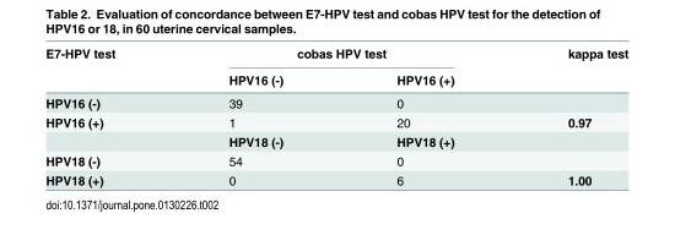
<table><thead><tr><td rowspan="2">E7-HPV test</td><td colspan="2">cobas HPV test</td><td rowspan="2">kappa test</td></tr><tr><td>HPV16 (-)</td><td>HPV16 (+)</td></tr></thead><tbody><tr><td>HPV16 (-)</td><td>39</td><td>0</td><td></td></tr><tr><td rowspan="2">HPV16 (+)</td><td>1</td><td>20</td><td>0.97</td></tr><tr><td>HPV18 (-)</td><td>HPV18 (+)</td><td></td></tr><tr><td>HPV18 (-)</td><td>54</td><td>0</td><td></td></tr><tr><td>HPV18 (+)</td><td>0</td><td>6</td><td>1.00</td></tr></tbody></table>